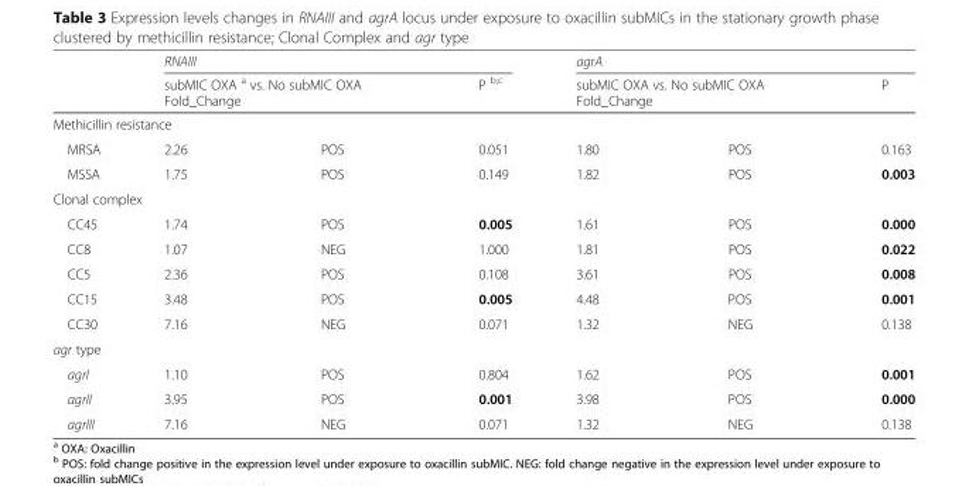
<table><thead><tr><td rowspan="2"></td><td colspan="3">RNAIII</td><td colspan="3">agrA</td></tr><tr><td colspan="2">subMIC OXA <sup>a</sup> vs. No subMIC OXA Fold_Change</td><td>P <sup>b;c</sup></td><td colspan="2">subMIC OXA vs. No subMIC OXA Fold_Change</td><td>P</td></tr><tr><td colspan="7">Methicillin resistance</td></tr><tr><td>MRSA</td><td>2.26</td><td>POS</td><td>0.051</td><td>1.80</td><td>POS</td><td>0.163</td></tr></thead><tbody><tr><td>MSSA</td><td>1.75</td><td>POS</td><td>0.149</td><td>1.82</td><td>POS</td><td>0.003</td></tr><tr><td colspan="7">Clonal complex</td></tr><tr><td>CC45</td><td>1.74</td><td>POS</td><td>0.005</td><td>1.61</td><td>POS</td><td>0.000</td></tr><tr><td>CC8</td><td>1.07</td><td>NEG</td><td>1.000</td><td>1.81</td><td>POS</td><td>0.022</td></tr><tr><td>CC5</td><td>2.36</td><td>POS</td><td>0.108</td><td>3.61</td><td>POS</td><td>0.008</td></tr><tr><td>CC15</td><td>3.48</td><td>POS</td><td>0.005</td><td>4.48</td><td>POS</td><td>0.001</td></tr><tr><td>CC30</td><td>7.16</td><td>NEG</td><td>0.071</td><td>1.32</td><td>NEG</td><td>0.138</td></tr><tr><td colspan="7">agr type</td></tr><tr><td>agrI</td><td>1.10</td><td>POS</td><td>0.804</td><td>1.62</td><td>POS</td><td>0.001</td></tr><tr><td>agrII</td><td>3.95</td><td>POS</td><td>0.001</td><td>3.98</td><td>POS</td><td>0.000</td></tr><tr><td>agrIII</td><td>7.16</td><td>NEG</td><td>0.071</td><td>1.32</td><td>NEG</td><td>0.138</td></tr></tbody></table>